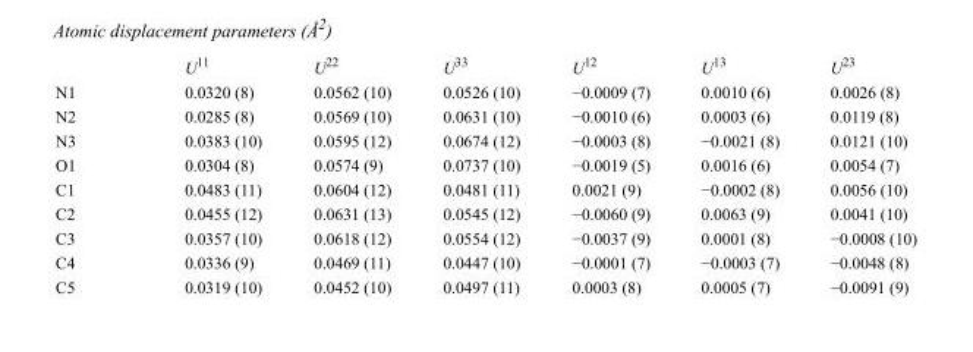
<table><thead><tr><td></td><td>U<sup>11</sup></td><td>U<sup>22</sup></td><td>U<sup>33</sup></td><td>U<sup>12</sup></td><td>U<sup>13</sup></td><td>U<sup>23</sup></td></tr></thead><tbody><tr><td>N1</td><td>0.0320 (8)</td><td>0.0562 (10)</td><td>0.0526 (10)</td><td>−0.0009 (7)</td><td>0.0010 (6)</td><td>0.0026 (8)</td></tr><tr><td>N2</td><td>0.0285 (8)</td><td>0.0569 (10)</td><td>0.0631 (10)</td><td>−0.0010 (6)</td><td>0.0003 (6)</td><td>0.0119 (8)</td></tr><tr><td>N3</td><td>0.0383 (10)</td><td>0.0595 (12)</td><td>0.0674 (12)</td><td>−0.0003 (8)</td><td>−0.0021 (8)</td><td>0.0121 (10)</td></tr><tr><td>O1</td><td>0.0304 (8)</td><td>0.0574 (9)</td><td>0.0737 (10)</td><td>−0.0019 (5)</td><td>0.0016 (6)</td><td>0.0054 (7)</td></tr><tr><td>C1</td><td>0.0483 (11)</td><td>0.0604 (12)</td><td>0.0481 (11)</td><td>0.0021 (9)</td><td>−0.0002 (8)</td><td>0.0056 (10)</td></tr><tr><td>C2</td><td>0.0455 (12)</td><td>0.0631 (13)</td><td>0.0545 (12)</td><td>−0.0060 (9)</td><td>0.0063 (9)</td><td>0.0041 (10)</td></tr><tr><td>C3</td><td>0.0357 (10)</td><td>0.0618 (12)</td><td>0.0554 (12)</td><td>−0.0037 (9)</td><td>0.0001 (8)</td><td>−0.0008 (10)</td></tr><tr><td>C4</td><td>0.0336 (9)</td><td>0.0469 (11)</td><td>0.0447 (10)</td><td>−0.0001 (7)</td><td>−0.0003 (7)</td><td>−0.0048 (8)</td></tr><tr><td>C5</td><td>0.0319 (10)</td><td>0.0452 (10)</td><td>0.0497 (11)</td><td>0.0003 (8)</td><td>0.0005 (7)</td><td>−0.0091 (9)</td></tr></tbody></table>